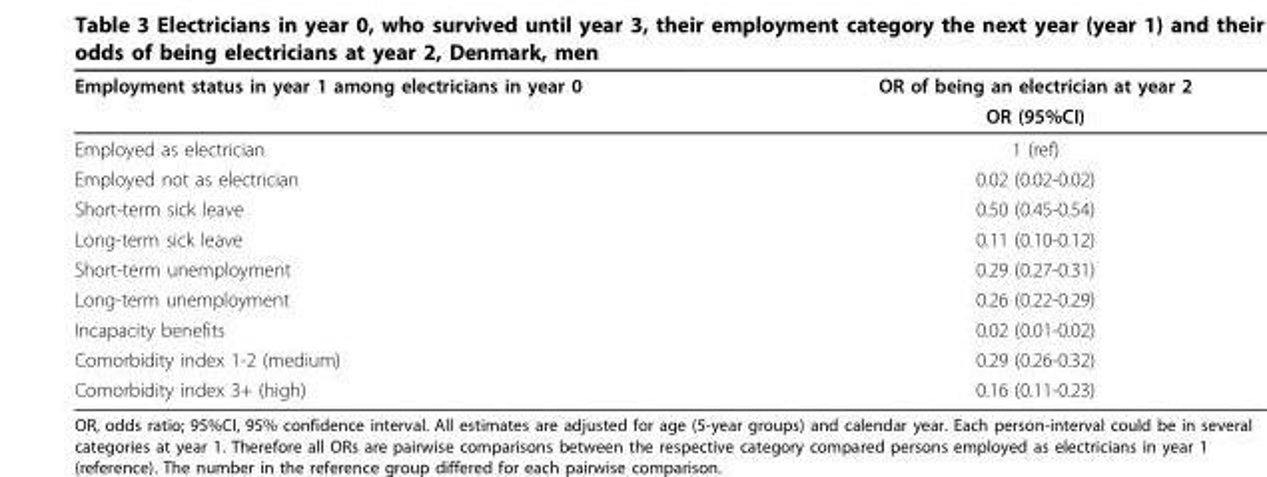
<table><thead><tr><td rowspan="2">Employment status in year 1 among electricians in year 0</td><td rowspan="2">OR of being an electrician at year 2 OR (95%CI)</td></tr><tr></tr></thead><tbody><tr><td>Employed as electrician</td><td>1 (ref)</td></tr><tr><td>Employed not as electrician</td><td>0.02 (0.02-0.02)</td></tr><tr><td>Short-term sick leave</td><td>0.50 (0.45-0.54)</td></tr><tr><td>Long-term sick leave</td><td>0.11 (0.10-0.12)</td></tr><tr><td>Short-term unemployment</td><td>0.29 (0.27-0.31)</td></tr><tr><td>Long-term unemployment</td><td>0.26 (0.22-0.29)</td></tr><tr><td>Incapacity benefits</td><td>0.02 (0.01-0.02)</td></tr><tr><td>Comorbidity index 1-2 (medium)</td><td>0.29 (0.26-0.32)</td></tr><tr><td>Comorbidity index 3+ (high)</td><td>0.16 (0.11-0.23)</td></tr></tbody></table>